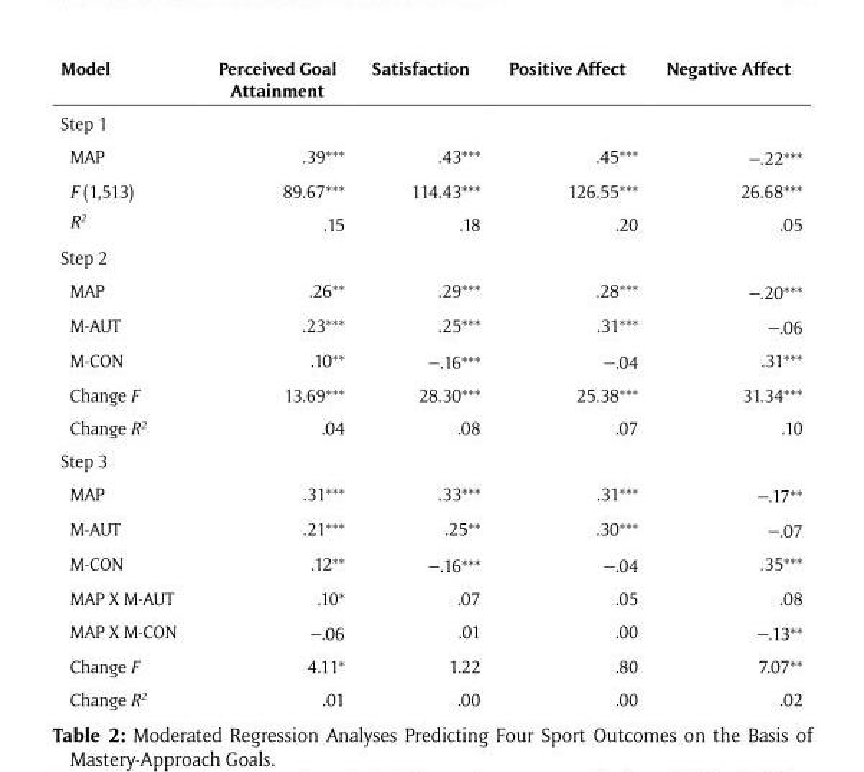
<table><thead><tr><td>Model</td><td>Perceived Goal Attainment</td><td>Satisfaction</td><td>Positive Affect</td><td>Negative Affect</td></tr></thead><tbody><tr><td colspan="5">Step 1</td></tr><tr><td>MAP</td><td>.39***</td><td>.43***</td><td>.45***</td><td>–.22***</td></tr><tr><td>F (1,513)</td><td>89.67***</td><td>114.43***</td><td>126.55***</td><td>26.68***</td></tr><tr><td>R<sup>2</sup></td><td>.15</td><td>.18</td><td>.20</td><td>.05</td></tr><tr><td colspan="5">Step 2</td></tr><tr><td>MAP</td><td>.26**</td><td>.29***</td><td>.28***</td><td>–.20***</td></tr><tr><td>M-AUT</td><td>.23***</td><td>.25***</td><td>.31***</td><td>–.06</td></tr><tr><td>M-CON</td><td>.10**</td><td>–.16***</td><td>–.04</td><td>.31***</td></tr><tr><td>Change F</td><td>13.69***</td><td>28.30***</td><td>25.38***</td><td>31.34***</td></tr><tr><td>Change R<sup>2</sup></td><td>.04</td><td>.08</td><td>.07</td><td>.10</td></tr><tr><td colspan="5">Step 3</td></tr><tr><td>MAP</td><td>.31***</td><td>.33***</td><td>.31***</td><td>–.17**</td></tr><tr><td>M-AUT</td><td>.21***</td><td>.25**</td><td>.30***</td><td>–.07</td></tr><tr><td>M-CON</td><td>.12**</td><td>–.16***</td><td>–.04</td><td>.35***</td></tr><tr><td>MAP X M-AUT</td><td>.10*</td><td>.07</td><td>.05</td><td>.08</td></tr><tr><td>MAP X M-CON</td><td>–.06</td><td>.01</td><td>.00</td><td>–.13**</td></tr><tr><td>Change F</td><td>4.11*</td><td>1.22</td><td>.80</td><td>7.07**</td></tr><tr><td>Change R<sup>2</sup></td><td>.01</td><td>.00</td><td>.00</td><td>.02</td></tr></tbody></table>